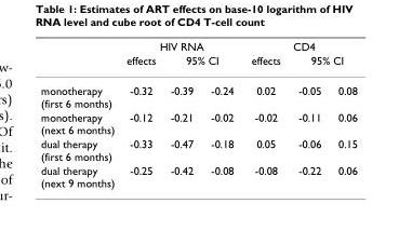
<table><thead><tr><td rowspan="3">monotherapy (first 6 months)</td><td colspan="3">HIV RNA</td><td colspan="3">CD4</td></tr><tr><td rowspan="2">effects -0.32</td><td colspan="2">95% CI</td><td rowspan="2">effects 0.02</td><td colspan="2">95% CI</td></tr><tr><td>-0.39</td><td>-0.24</td><td>-0.05</td><td>0.08</td></tr></thead><tbody><tr><td>monotherapy (next 6 months)</td><td>-0.12</td><td>-0.21</td><td>-0.02</td><td>-0.02</td><td>-0.11</td><td>0.06</td></tr><tr><td>dual therapy (first 6 months)</td><td>-0.33</td><td>-0.47</td><td>-0.18</td><td>0.05</td><td>-0.06</td><td>0.15</td></tr><tr><td>dual therapy (next 9 months)</td><td>-0.25</td><td>-0.42</td><td>-0.08</td><td>-0.08</td><td>-0.22</td><td>0.06</td></tr></tbody></table>